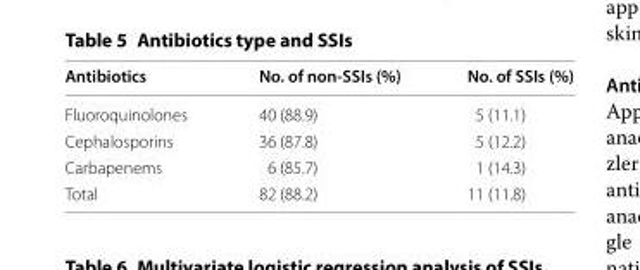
<table><thead><tr><td>Antibiotics</td><td>No. of non‑SSIs (%)</td><td>No. of SSIs (%)</td></tr></thead><tbody><tr><td>Fluoroquinolones</td><td>40 (88.9)</td><td>5 (11.1)</td></tr><tr><td>Cephalosporins</td><td>36 (87.8)</td><td>5 (12.2)</td></tr><tr><td>Carbapenems</td><td>6 (85.7)</td><td>1 (14.3)</td></tr><tr><td>Total</td><td>82 (88.2)</td><td>11 (11.8)</td></tr></tbody></table>